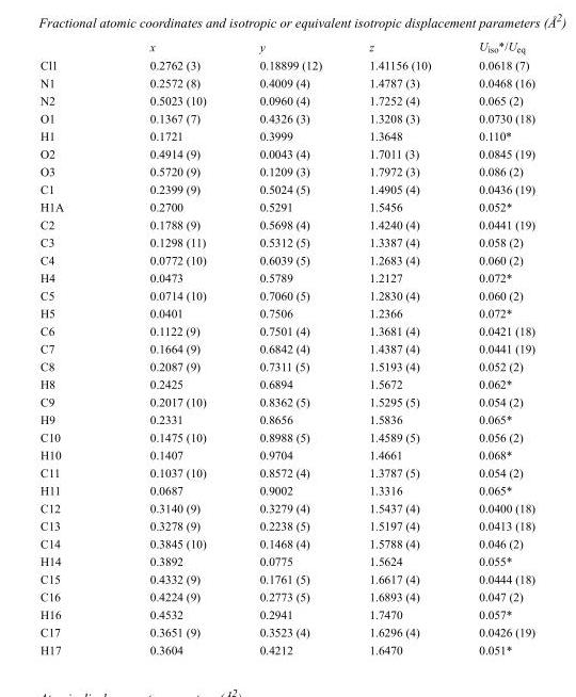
<table><thead><tr><td></td><td>x</td><td>y</td><td>z</td><td>U<sub>iso</sub>*/U<sub>eq</sub></td></tr></thead><tbody><tr><td>Cl1</td><td>0.2762 (3)</td><td>0.18899 (12)</td><td>1.41156 (10)</td><td>0.0618 (7)</td></tr><tr><td>N1</td><td>0.2572 (8)</td><td>0.4009 (4)</td><td>1.4787 (3)</td><td>0.0468 (16)</td></tr><tr><td>N2</td><td>0.5023 (10)</td><td>0.0960 (4)</td><td>1.7252 (4)</td><td>0.065 (2)</td></tr><tr><td>O1</td><td>0.1367 (7)</td><td>0.4326 (3)</td><td>1.3208 (3)</td><td>0.0730 (18)</td></tr><tr><td>H1</td><td>0.1721</td><td>0.3999</td><td>1.3648</td><td>0.110*</td></tr><tr><td>O2</td><td>0.4914 (9)</td><td>0.0043 (4)</td><td>1.7011 (3)</td><td>0.0845 (19)</td></tr><tr><td>O3</td><td>0.5720 (9)</td><td>0.1209 (3)</td><td>1.7972 (3)</td><td>0.086 (2)</td></tr><tr><td>C1</td><td>0.2399 (9)</td><td>0.5024 (5)</td><td>1.4905 (4)</td><td>0.0436 (19)</td></tr><tr><td>H1A</td><td>0.2700</td><td>0.5291</td><td>1.5456</td><td>0.052*</td></tr><tr><td>C2</td><td>0.1788 (9)</td><td>0.5698 (4)</td><td>1.4240 (4)</td><td>0.0441 (19)</td></tr><tr><td>C3</td><td>0.1298 (11)</td><td>0.5312 (5)</td><td>1.3387 (4)</td><td>0.058 (2)</td></tr><tr><td>C4</td><td>0.0772 (10)</td><td>0.6039 (5)</td><td>1.2683 (4)</td><td>0.060 (2)</td></tr><tr><td>H4</td><td>0.0473</td><td>0.5789</td><td>1.2127</td><td>0.072*</td></tr><tr><td>C5</td><td>0.0714 (10)</td><td>0.7060 (5)</td><td>1.2830 (4)</td><td>0.060 (2)</td></tr><tr><td>H5</td><td>0.0401</td><td>0.7506</td><td>1.2366</td><td>0.072*</td></tr><tr><td>C6</td><td>0.1122 (9)</td><td>0.7501 (4)</td><td>1.3681 (4)</td><td>0.0421 (18)</td></tr><tr><td>C7</td><td>0.1664 (9)</td><td>0.6842 (4)</td><td>1.4387 (4)</td><td>0.0441 (19)</td></tr><tr><td>C8</td><td>0.2087 (9)</td><td>0.7311 (5)</td><td>1.5193 (4)</td><td>0.052 (2)</td></tr><tr><td>H8</td><td>0.2425</td><td>0.6894</td><td>1.5672</td><td>0.062*</td></tr><tr><td>C9</td><td>0.2017 (10)</td><td>0.8362 (5)</td><td>1.5295 (5)</td><td>0.054 (2)</td></tr><tr><td>H9</td><td>0.2331</td><td>0.8656</td><td>1.5836</td><td>0.065*</td></tr><tr><td>C10</td><td>0.1475 (10)</td><td>0.8988 (5)</td><td>1.4589 (5)</td><td>0.056 (2)</td></tr><tr><td>H10</td><td>0.1407</td><td>0.9704</td><td>1.4661</td><td>0.068*</td></tr><tr><td>C11</td><td>0.1037 (10)</td><td>0.8572 (4)</td><td>1.3787 (5)</td><td>0.054 (2)</td></tr><tr><td>H11</td><td>0.0687</td><td>0.9002</td><td>1.3316</td><td>0.065*</td></tr><tr><td>C12</td><td>0.3140 (9)</td><td>0.3279 (4)</td><td>1.5437 (4)</td><td>0.0400 (18)</td></tr><tr><td>C13</td><td>0.3278 (9)</td><td>0.2238 (5)</td><td>1.5197 (4)</td><td>0.0413 (18)</td></tr><tr><td>C14</td><td>0.3845 (10)</td><td>0.1468 (4)</td><td>1.5788 (4)</td><td>0.046 (2)</td></tr><tr><td>H14</td><td>0.3892</td><td>0.0775</td><td>1.5624</td><td>0.055*</td></tr><tr><td>C15</td><td>0.4332 (9)</td><td>0.1761 (5)</td><td>1.6617 (4)</td><td>0.0444 (18)</td></tr><tr><td>C16</td><td>0.4224 (9)</td><td>0.2773 (5)</td><td>1.6893 (4)</td><td>0.047 (2)</td></tr><tr><td>H16</td><td>0.4532</td><td>0.2941</td><td>1.7470</td><td>0.057*</td></tr><tr><td>C17</td><td>0.3651 (9)</td><td>0.3523 (4)</td><td>1.6296 (4)</td><td>0.0426 (19)</td></tr><tr><td>H17</td><td>0.3604</td><td>0.4212</td><td>1.6470</td><td>0.051*</td></tr></tbody></table>